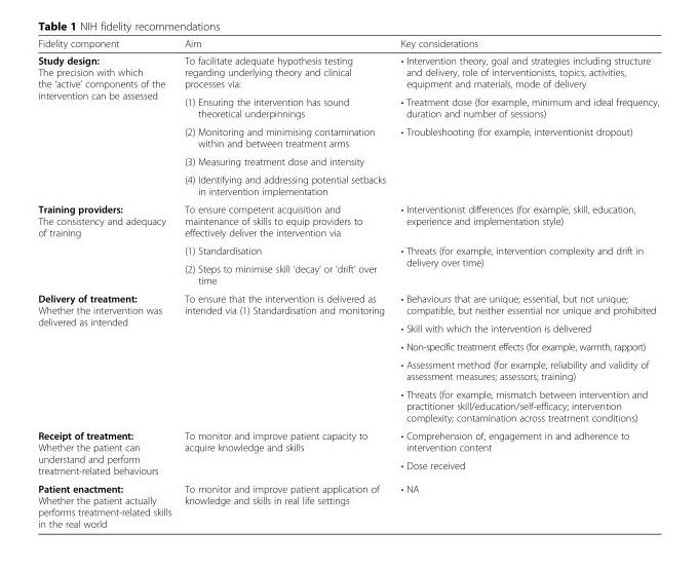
<table><thead><tr><td>Fidelity component</td><td>Aim</td><td>Key considerations</td></tr></thead><tbody><tr><td rowspan="5">Study design: The precision with which the ‘active’ components of the intervention can be assessed</td><td>To facilitate adequate hypothesis testing regarding underlying theory and clinical processes via:</td><td>• Intervention theory, goal and strategies including structure and delivery, role of interventionists, topics, activities, equipment and materials, mode of delivery</td></tr><tr><td>(1) Ensuring the intervention has sound theoretical underpinnings</td><td>• Treatment dose (for example, minimum and ideal frequency, duration and number of sessions)</td></tr><tr><td>(2) Monitoring and minimising contamination within and between treatment arms</td><td rowspan="3">• Troubleshooting (for example, interventionist dropout)</td></tr><tr><td>(3) Measuring treatment dose and intensity</td></tr><tr><td>(4) Identifying and addressing potential setbacks in intervention implementation</td></tr><tr><td rowspan="3">Training providers: The consistency and adequacy of training</td><td>To ensure competent acquisition and maintenance of skills to equip providers to effectively deliver the intervention via</td><td>• Interventionist differences (for example, skill, education, experience and implementation style)</td></tr><tr><td>(1) Standardisation</td><td rowspan="2">• Threats (for example, intervention complexity and drift in delivery over time)</td></tr><tr><td>(2) Steps to minimise skill ‘decay’ or ‘drift’ over time</td></tr><tr><td rowspan="5">Delivery of treatment: Whether the intervention was delivered as intended</td><td rowspan="5">To ensure that the intervention is delivered as intended via (1) Standardisation and monitoring</td><td>• Behaviours that are unique; essential, but not unique; compatible, but neither essential nor unique and prohibited</td></tr><tr><td>• Skill with which the intervention is delivered</td></tr><tr><td>• Non-specific treatment effects (for example, warmth, rapport)</td></tr><tr><td>• Assessment method (for example, reliability and validity of assessment measures; assessors; training)</td></tr><tr><td>• Threats (for example, mismatch between intervention and practitioner skill/education/self-efficacy; intervention complexity; contamination across treatment conditions)</td></tr><tr><td rowspan="2">Receipt of treatment: Whether the patient can understand and perform treatment-related behaviours</td><td rowspan="2">To monitor and improve patient capacity to acquire knowledge and skills</td><td>• Comprehension of, engagement in and adherence to intervention content</td></tr><tr><td>• Dose received</td></tr><tr><td>Patient enactment: Whether the patient actually performs treatment-related skills in the real world</td><td>To monitor and improve patient application of knowledge and skills in real life settings</td><td>• NA</td></tr></tbody></table>